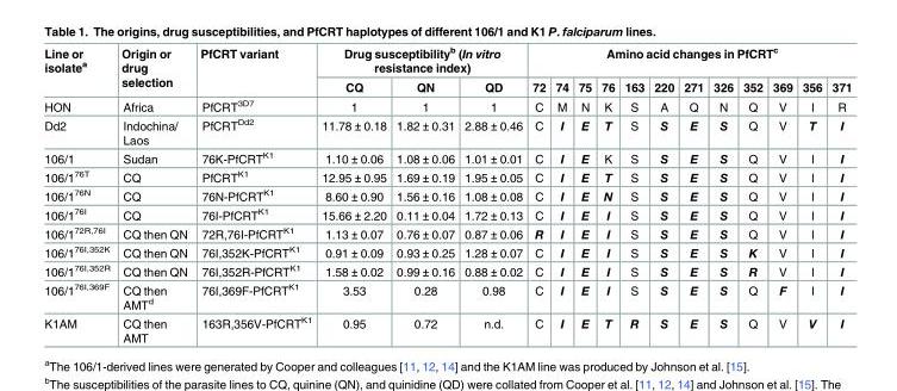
<table><thead><tr><td rowspan="2">Line or isolate<sup>a</sup></td><td rowspan="2">Origin or drug selection</td><td rowspan="2">PfCRT variant</td><td colspan="3">Drug susceptibility<sup>b</sup> (In vitro resistance index)</td><td colspan="12">Amino acid changes in PfCRT<sup>c</sup></td></tr><tr><td>CQ</td><td>QN</td><td>QD</td><td>72</td><td>74</td><td>75</td><td>76</td><td>163</td><td>220</td><td>271</td><td>326</td><td>352</td><td>369</td><td>356</td><td>371</td></tr></thead><tbody><tr><td>HON</td><td>Africa</td><td>PfCRT<sup>3D7</sup></td><td>1</td><td>1</td><td>1</td><td>C</td><td>M</td><td>N</td><td>K</td><td>S</td><td>A</td><td>Q</td><td>N</td><td>Q</td><td>V</td><td>I</td><td>R</td></tr><tr><td>Dd2</td><td>Indochina/ Laos</td><td>PfCRT<sup>Dd2</sup></td><td>11.78 ± 0.18</td><td>1.82 ± 0.31</td><td>2.88 ± 0.46</td><td>C</td><td>I</td><td>E</td><td>T</td><td>S</td><td>S</td><td>E</td><td>S</td><td>Q</td><td>V</td><td>T</td><td>I</td></tr><tr><td>106/1</td><td>Sudan</td><td>76K-PfCRT<sup>K1</sup></td><td>1.10 ± 0.06</td><td>1.08 ± 0.06</td><td>1.01 ± 0.01</td><td>C</td><td>I</td><td>E</td><td>K</td><td>S</td><td>S</td><td>E</td><td>S</td><td>Q</td><td>V</td><td>I</td><td>I</td></tr><tr><td>106/1<sup>76T</sup></td><td>CQ</td><td>PfCRT<sup>K1</sup></td><td>12.95 ± 0.95</td><td>1.69 ± 0.19</td><td>1.95 ± 0.05</td><td>C</td><td>I</td><td>E</td><td>T</td><td>S</td><td>S</td><td>E</td><td>S</td><td>Q</td><td>V</td><td>I</td><td>I</td></tr><tr><td>106/1<sup>76N</sup></td><td>CQ</td><td>76N-PfCRT<sup>K1</sup></td><td>8.60 ± 0.90</td><td>1.56 ± 0.16</td><td>1.08 ± 0.08</td><td>C</td><td>I</td><td>E</td><td>N</td><td>S</td><td>S</td><td>E</td><td>S</td><td>Q</td><td>V</td><td>I</td><td>I</td></tr><tr><td>106/1<sup>76I</sup></td><td>CQ</td><td>76I-PfCRT<sup>K1</sup></td><td>15.66 ± 2.20</td><td>0.11 ± 0.04</td><td>1.72 ± 0.13</td><td>C</td><td>I</td><td>E</td><td>I</td><td>S</td><td>S</td><td>E</td><td>S</td><td>Q</td><td>V</td><td>I</td><td>I</td></tr><tr><td>106/1<sup>72R,76I</sup></td><td>CQ then QN</td><td>72R,76I-PfCRT<sup>K1</sup></td><td>1.13 ± 0.07</td><td>0.76 ± 0.07</td><td>0.87 ± 0.06</td><td>R</td><td>I</td><td>E</td><td>I</td><td>S</td><td>S</td><td>E</td><td>S</td><td>Q</td><td>V</td><td>I</td><td>I</td></tr><tr><td>106/1<sup>76I,352K</sup></td><td>CQ then QN</td><td>76I,352K-PfCRT<sup>K1</sup></td><td>0.91 ± 0.09</td><td>0.93 ± 0.25</td><td>1.28 ± 0.07</td><td>C</td><td>I</td><td>E</td><td>I</td><td>S</td><td>S</td><td>E</td><td>S</td><td>K</td><td>V</td><td>I</td><td>I</td></tr><tr><td>106/1<sup>76I,352R</sup></td><td>CQ then QN</td><td>76I,352R-PfCRT<sup>K1</sup></td><td>1.58 ± 0.02</td><td>0.99 ± 0.16</td><td>0.88 ± 0.02</td><td>C</td><td>I</td><td>E</td><td>I</td><td>S</td><td>S</td><td>E</td><td>S</td><td>R</td><td>V</td><td>I</td><td>I</td></tr><tr><td>106/1<sup>76I,369F</sup></td><td>CQ then AMT<sup>d</sup></td><td>76I,369F-PfCRT<sup>K1</sup></td><td>3.53</td><td>0.28</td><td>0.98</td><td>C</td><td>I</td><td>E</td><td>I</td><td>S</td><td>S</td><td>E</td><td>S</td><td>Q</td><td>F</td><td>I</td><td>I</td></tr><tr><td>K1AM</td><td>CQ then AMT</td><td>163R,356V-PfCRT<sup>K1</sup></td><td>0.95</td><td>0.72</td><td>n.d.</td><td>C</td><td>I</td><td>E</td><td>T</td><td>R</td><td>S</td><td>E</td><td>S</td><td>Q</td><td>V</td><td>V</td><td>I</td></tr></tbody></table>